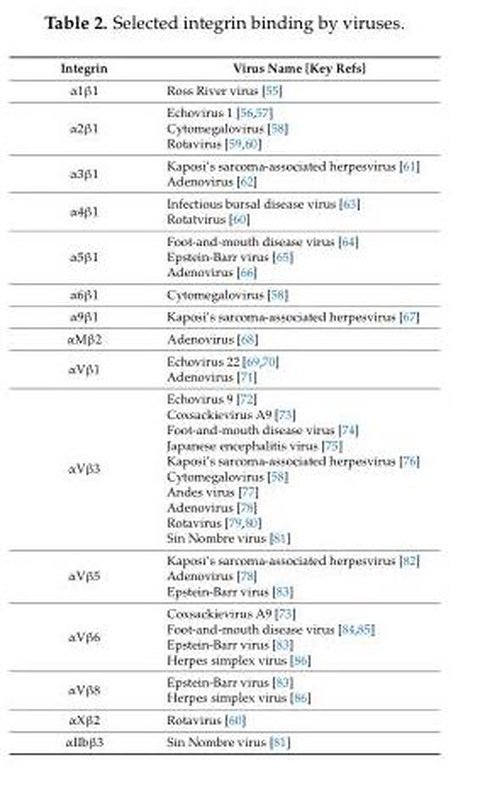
<table><thead><tr><td>Integrin</td><td>Virus Name [Key Refs]</td></tr></thead><tbody><tr><td>α1β1</td><td>Ross River virus [55]</td></tr><tr><td>α2β1</td><td>Echovirus 1 [56,57] Cytomegalovirus [58] Rotavirus [59,60]</td></tr><tr><td>α3β1</td><td>Kaposi’s sarcoma-associated herpesvirus [61] Adenovirus [62]</td></tr><tr><td>α4β1</td><td>Infectious bursal disease virus [63] Rotatvirus [60]</td></tr><tr><td>α5β1</td><td>Foot-and-mouth disease virus [64] Epstein-Barr virus [65] Adenovirus [66]</td></tr><tr><td>α6β1</td><td>Cytomegalovirus [58]</td></tr><tr><td>α9β1</td><td>Kaposi’s sarcoma-associated herpesvirus [67]</td></tr><tr><td>αMβ2</td><td>Adenovirus [68]</td></tr><tr><td>αVβ1</td><td>Echovirus 22 [69,70] Adenovirus [71]</td></tr><tr><td>αVβ3</td><td>Echovirus 9 [72] Coxsackievirus A9 [73] Foot-and-mouth disease virus [74] Japanese encephalitis virus [75] Kaposi’s sarcoma-associated herpesvirus [76] Cytomegalovirus [58] Andes virus [77] Adenovirus [78] Rotavirus [79,80] Sin Nombre virus [81]</td></tr><tr><td>αVβ5</td><td>Kaposi’s sarcoma-associated herpesvirus [82] Adenovirus [78] Epstein-Barr virus [83]</td></tr><tr><td>αVβ6</td><td>Coxsackievirus A9 [73] Foot-and-mouth disease virus [84,85] Epstein-Barr virus [83] Herpes simplex virus [86]</td></tr><tr><td>αVβ8</td><td>Epstein-Barr virus [83] Herpes simplex virus [86]</td></tr><tr><td>αXβ2</td><td>Rotavirus [60]</td></tr><tr><td>αIIbβ3</td><td>Sin Nombre virus [81]</td></tr></tbody></table>